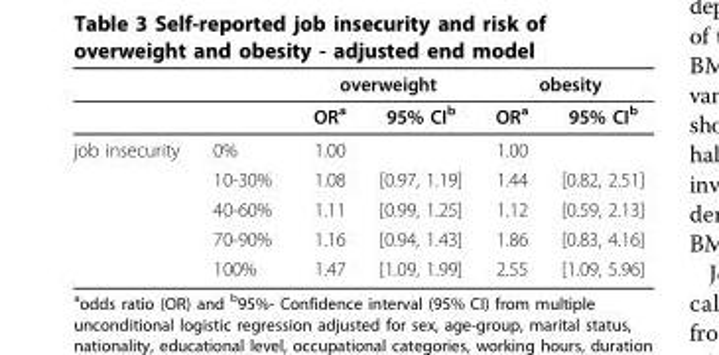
<table><thead><tr><td rowspan="2"></td><td rowspan="2"></td><td colspan="2">overweight</td><td colspan="2">obesity</td></tr><tr><td>OR<sup>a</sup></td><td>95% CI<sup>b</sup></td><td>OR<sup>a</sup></td><td>95% CI<sup>b</sup></td></tr></thead><tbody><tr><td rowspan="5">job insecurity</td><td>0%</td><td>1.00</td><td></td><td>1.00</td><td></td></tr><tr><td>10-30%</td><td>1.08</td><td>[0.97, 1.19]</td><td>1.44</td><td>[0.82, 2.51]</td></tr><tr><td>40-60%</td><td>1.11</td><td>[0.99, 1.25]</td><td>1.12</td><td>[0.59, 2.13]</td></tr><tr><td>70-90%</td><td>1.16</td><td>[0.94, 1.43]</td><td>1.86</td><td>[0.83, 4.16]</td></tr><tr><td>100%</td><td>1.47</td><td>[1.09, 1.99]</td><td>2.55</td><td>[1.09, 5.96]</td></tr></tbody></table>